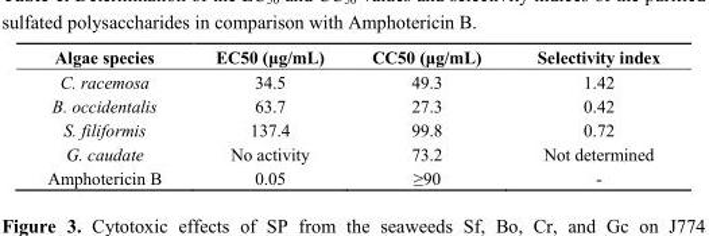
<table><thead><tr><td>Algae species</td><td>EC50 (μg/mL)</td><td>CC50 (μg/mL)</td><td>Selectivity index</td></tr></thead><tbody><tr><td>C. racemosa</td><td>34.5</td><td>49.3</td><td>1.42</td></tr><tr><td>B. occidentalis</td><td>63.7</td><td>27.3</td><td>0.42</td></tr><tr><td>S. filiformis</td><td>137.4</td><td>99.8</td><td>0.72</td></tr><tr><td>G. caudate</td><td>No activity</td><td>73.2</td><td>Not determined</td></tr><tr><td>Amphotericin B</td><td>0.05</td><td>≥90</td><td>-</td></tr></tbody></table>